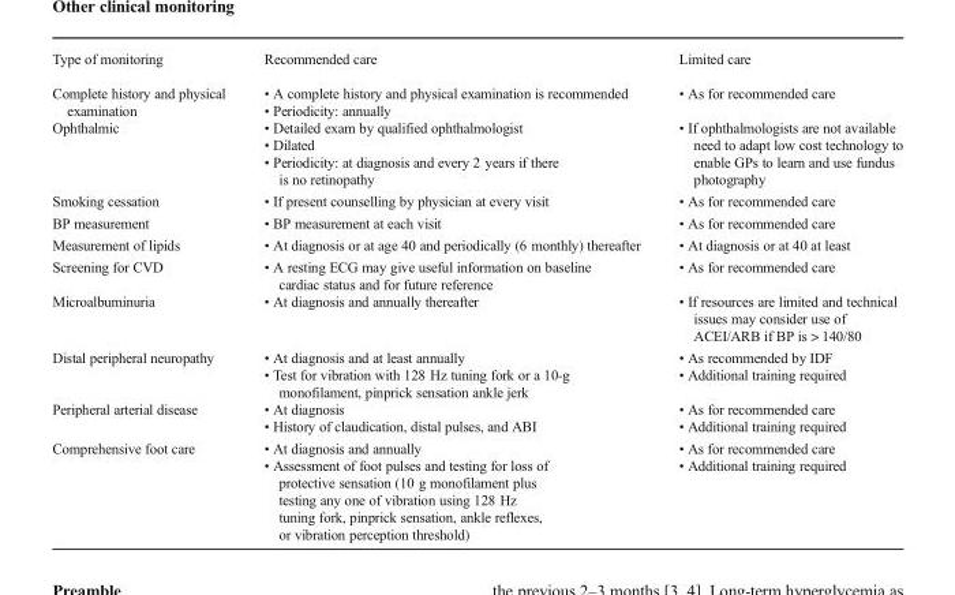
<table><thead><tr><td>Type of monitoring</td><td>Recommended care</td><td>Limited care</td></tr></thead><tbody><tr><td>Complete history and physical examination</td><td>• A complete history and physical examination is recommended • Periodicity: annually</td><td>• As for recommended care</td></tr><tr><td>Ophthalmic</td><td>• Detailed exam by qualified ophthalmologist • Dilated • Periodicity: at diagnosis and every 2 years if there is no retinopathy</td><td>• If ophthalmologists are not available need to adapt low cost technology to enable GPs to learn and use fundus photography</td></tr><tr><td>Smoking cessation</td><td>• If present counselling by physician at every visit</td><td>• As for recommended care</td></tr><tr><td>BP measurement</td><td>• BP measurement at each visit</td><td>• As for recommended care</td></tr><tr><td>Measurement of lipids</td><td>• At diagnosis or at age 40 and periodically (6 monthly) thereafter</td><td>• At diagnosis or at 40 at least</td></tr><tr><td>Screening for CVD</td><td>• A resting ECG may give useful information on baseline cardiac status and for future reference</td><td>• As for recommended care</td></tr><tr><td>Microalbuminuria</td><td>• At diagnosis and annually thereafter</td><td>• If resources are limited and technical issues may consider use of ACEI/ARB if BP is &gt; 140/80</td></tr><tr><td>Distal peripheral neuropathy</td><td>• At diagnosis and at least annually • Test for vibration with 128 Hz tuning fork or a 10-g monofilament, pinprick sensation ankle jerk</td><td>• As recommended by IDF • Additional training required</td></tr><tr><td>Peripheral arterial disease</td><td>• At diagnosis • History of claudication, distal pulses, and ABI</td><td>• As for recommended care • Additional training required</td></tr><tr><td>Comprehensive foot care</td><td>• At diagnosis and annually • Assessment of foot pulses and testing for loss of protective sensation (10 g monofilament plus testing any one of vibration using 128 Hz tuning fork, pinprick sensation, ankle reflexes, or vibration perception threshold)</td><td>• As for recommended care • Additional training required</td></tr></tbody></table>